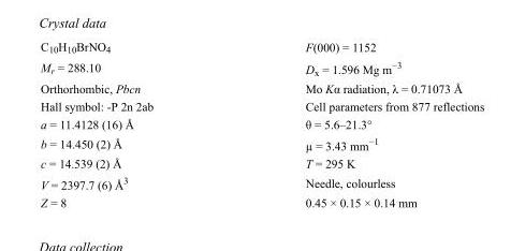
<table><tbody><tr><td>C<sub>10</sub>H<sub>10</sub>BrNO<sub>4</sub></td><td>F(000) = 1152</td></tr><tr><td>M<sub>r</sub> = 288.10</td><td>D<sub>x</sub> = 1.596 Mg m<sup>−3</sup></td></tr><tr><td>Orthorhombic, Pbcn</td><td>Mo Kα radiation, λ = 0.71073 Å</td></tr><tr><td>Hall symbol: -P 2n 2ab</td><td>Cell parameters from 877 reflections</td></tr><tr><td>a = 11.4128 (16) Å</td><td>θ = 5.6–21.3°</td></tr><tr><td>b = 14.450 (2) Å</td><td>µ = 3.43 mm<sup>−1</sup></td></tr><tr><td>c = 14.539 (2) Å</td><td>T = 295 K</td></tr><tr><td>V = 2397.7 (6) Å<sup>3</sup></td><td>Needle, colourless</td></tr><tr><td>Z = 8</td><td>0.45 × 0.15 × 0.14 mm</td></tr></tbody></table>